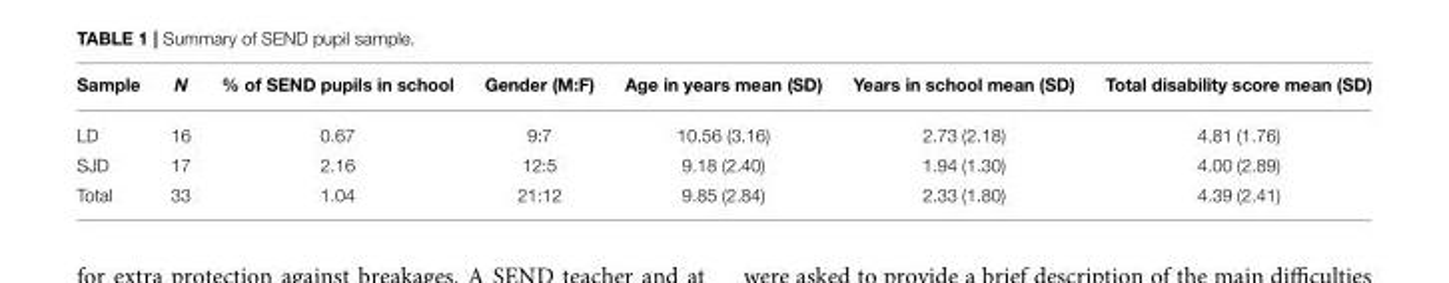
<table><thead><tr><td>Sample</td><td>N</td><td>% of SEND pupils in school</td><td>Gender (M:F)</td><td>Age in years mean (SD)</td><td>Years in school mean (SD)</td><td>Total disability score mean (SD)</td></tr></thead><tbody><tr><td>LD</td><td>16</td><td>0.67</td><td>9:7</td><td>10.56 (3.16)</td><td>2.73 (2.18)</td><td>4.81 (1.76)</td></tr><tr><td>SJD</td><td>17</td><td>2.16</td><td>12:5</td><td>9.18 (2.40)</td><td>1.94 (1.30)</td><td>4.00 (2.89)</td></tr><tr><td>Total</td><td>33</td><td>1.04</td><td>21:12</td><td>9.85 (2.84)</td><td>2.33 (1.80)</td><td>4.39 (2.41)</td></tr></tbody></table>